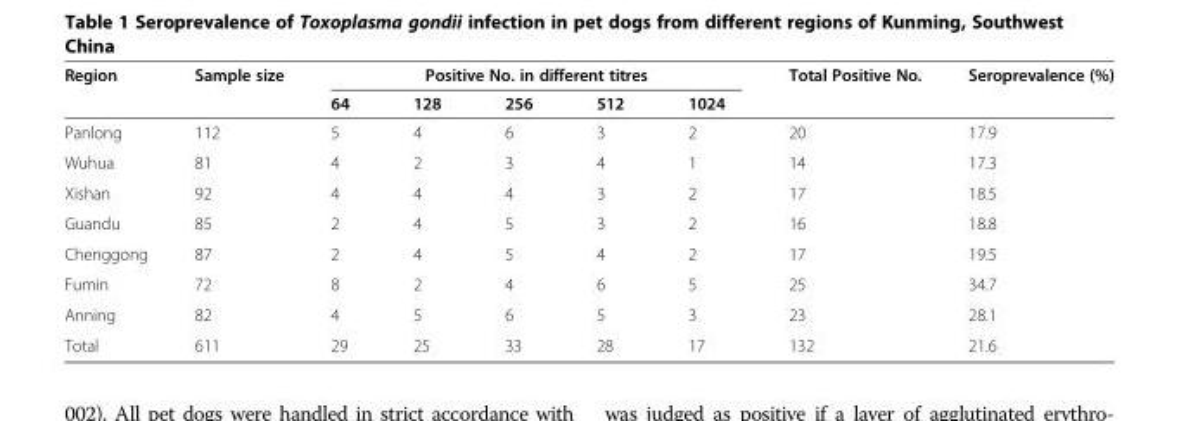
<table><thead><tr><td rowspan="2">Region</td><td rowspan="2">Sample size</td><td colspan="5">Positive No. in different titres</td><td rowspan="2">Total Positive No.</td><td rowspan="2">Seroprevalence (%)</td></tr><tr><td>64</td><td>128</td><td>256</td><td>512</td><td>1024</td></tr></thead><tbody><tr><td>Panlong</td><td>112</td><td>5</td><td>4</td><td>6</td><td>3</td><td>2</td><td>20</td><td>17.9</td></tr><tr><td>Wuhua</td><td>81</td><td>4</td><td>2</td><td>3</td><td>4</td><td>1</td><td>14</td><td>17.3</td></tr><tr><td>Xishan</td><td>92</td><td>4</td><td>4</td><td>4</td><td>3</td><td>2</td><td>17</td><td>18.5</td></tr><tr><td>Guandu</td><td>85</td><td>2</td><td>4</td><td>5</td><td>3</td><td>2</td><td>16</td><td>18.8</td></tr><tr><td>Chenggong</td><td>87</td><td>2</td><td>4</td><td>5</td><td>4</td><td>2</td><td>17</td><td>19.5</td></tr><tr><td>Fumin</td><td>72</td><td>8</td><td>2</td><td>4</td><td>6</td><td>5</td><td>25</td><td>34.7</td></tr><tr><td>Anning</td><td>82</td><td>4</td><td>5</td><td>6</td><td>5</td><td>3</td><td>23</td><td>28.1</td></tr><tr><td>Total</td><td>611</td><td>29</td><td>25</td><td>33</td><td>28</td><td>17</td><td>132</td><td>21.6</td></tr></tbody></table>